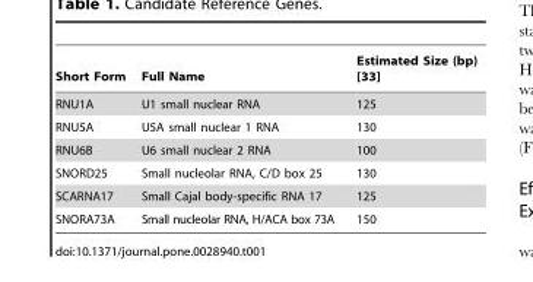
<table><thead><tr><td>Short Form</td><td>Full Name</td><td>Estimated Size (bp) [33]</td></tr></thead><tbody><tr><td>RNU1A</td><td>U1 small nuclear RNA</td><td>125</td></tr><tr><td>RNU5A</td><td>U5A small nuclear 1 RNA</td><td>130</td></tr><tr><td>RNU6B</td><td>U6 small nuclear 2 RNA</td><td>100</td></tr><tr><td>SNORD25</td><td>Small nucleolar RNA, C/D box 25</td><td>130</td></tr><tr><td>SCARNA17</td><td>Small Cajal body-specific RNA 17</td><td>125</td></tr><tr><td>SNORA73A</td><td>Small nucleolar RNA, H/ACA box 73A</td><td>150</td></tr></tbody></table>